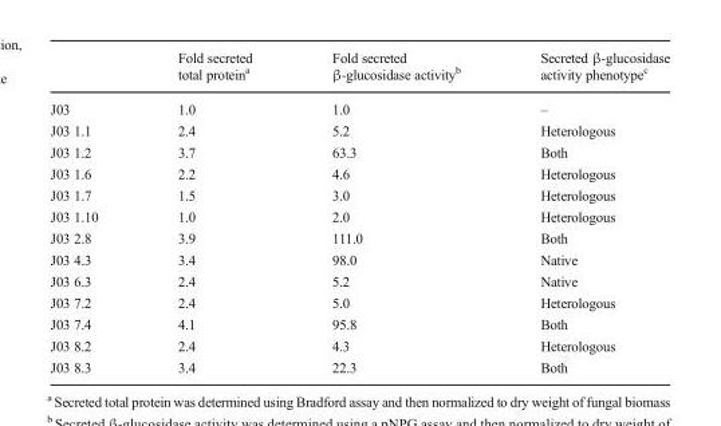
<table><thead><tr><td></td><td>Fold secreted total protein<sup>a</sup></td><td>Fold secreted β-glucosidase activity<sup>b</sup></td><td>Secreted β-glucosidase activity phenotype<sup>c</sup></td></tr></thead><tbody><tr><td>J03</td><td>1.0</td><td>1.0</td><td>–</td></tr><tr><td>J03 1.1</td><td>2.4</td><td>5.2</td><td>Heterologous</td></tr><tr><td>J03 1.2</td><td>3.7</td><td>63.3</td><td>Both</td></tr><tr><td>J03 1.6</td><td>2.2</td><td>4.6</td><td>Heterologous</td></tr><tr><td>J03 1.7</td><td>1.5</td><td>3.0</td><td>Heterologous</td></tr><tr><td>J03 1.10</td><td>1.0</td><td>2.0</td><td>Heterologous</td></tr><tr><td>J03 2.8</td><td>3.9</td><td>111.0</td><td>Both</td></tr><tr><td>J03 4.3</td><td>3.4</td><td>98.0</td><td>Native</td></tr><tr><td>J03 6.3</td><td>2.4</td><td>5.2</td><td>Native</td></tr><tr><td>J03 7.2</td><td>2.4</td><td>5.0</td><td>Heterologous</td></tr><tr><td>J03 7.4</td><td>4.1</td><td>95.8</td><td>Both</td></tr><tr><td>J03 8.2</td><td>2.4</td><td>4.3</td><td>Heterologous</td></tr><tr><td>J03 8.3</td><td>3.4</td><td>22.3</td><td>Both</td></tr></tbody></table>